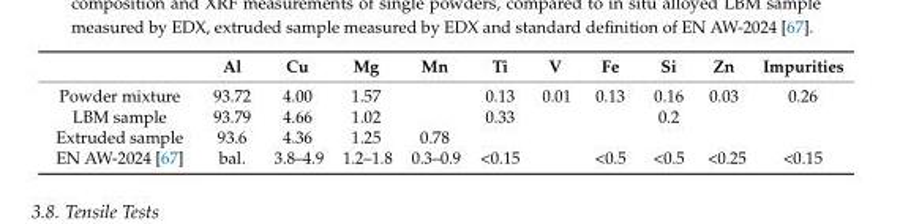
<table><thead><tr><td></td><td>Al</td><td>Cu</td><td>Mg</td><td>Mn</td><td>Ti</td><td>V</td><td>Fe</td><td>Si</td><td>Zn</td><td>Impurities</td></tr></thead><tbody><tr><td>Powder mixture</td><td>93.72</td><td>4.00</td><td>1.57</td><td></td><td>0.13</td><td>0.01</td><td>0.13</td><td>0.16</td><td>0.03</td><td>0.26</td></tr><tr><td>LBM sample</td><td>93.79</td><td>4.66</td><td>1.02</td><td></td><td>0.33</td><td></td><td></td><td>0.2</td><td></td><td></td></tr><tr><td>Extruded sample</td><td>93.6</td><td>4.36</td><td>1.25</td><td>0.78</td><td></td><td></td><td></td><td></td><td></td><td></td></tr><tr><td>EN AW-2024 [67]</td><td>bal.</td><td>3.8–4.9</td><td>1.2–1.8</td><td>0.3–0.9</td><td>&lt;0.15</td><td></td><td>&lt;0.5</td><td>&lt;0.5</td><td>&lt;0.25</td><td>&lt;0.15</td></tr></tbody></table>